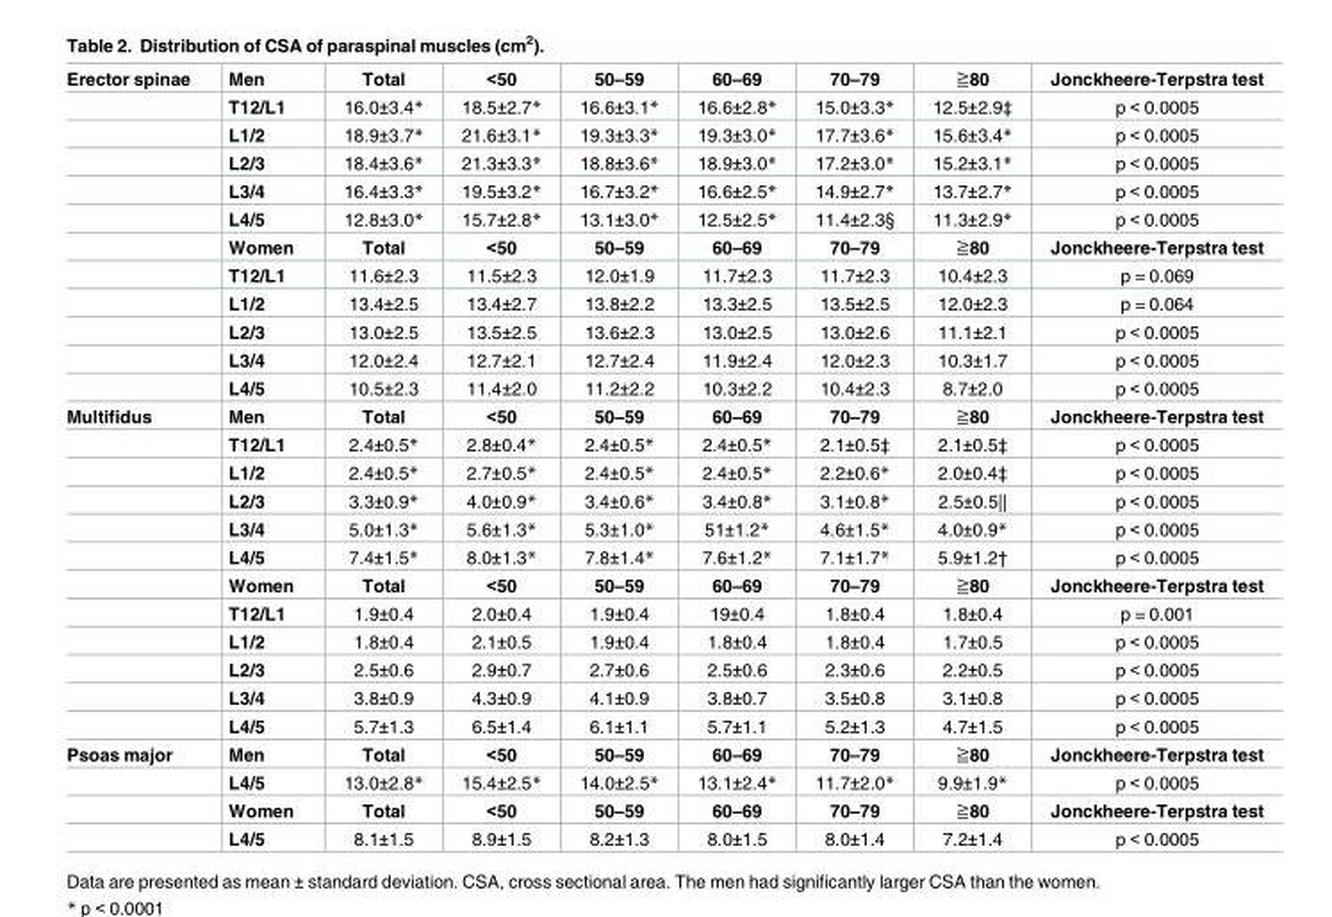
<table><tbody><tr><td rowspan="12">Erector spinae</td><td>Men</td><td>Total</td><td>&lt;50</td><td>50–59</td><td>60–69</td><td>70–79</td><td>≧80</td><td>Jonckheere-Terpstra test</td></tr><tr><td>T12/L1</td><td>16.0±3.4*</td><td>18.5±2.7*</td><td>16.6±3.1*</td><td>16.6±2.8*</td><td>15.0±3.3*</td><td>12.5±2.9‡</td><td>p &lt; 0.0005</td></tr><tr><td>L1/2</td><td>18.9±3.7*</td><td>21.6±3.1*</td><td>19.3±3.3*</td><td>19.3±3.0*</td><td>17.7±3.6*</td><td>15.6±3.4*</td><td>p &lt; 0.0005</td></tr><tr><td>L2/3</td><td>18.4±3.6*</td><td>21.3±3.3*</td><td>18.8±3.6*</td><td>18.9±3.0*</td><td>17.2±3.0*</td><td>15.2±3.1*</td><td>p &lt; 0.0005</td></tr><tr><td>L3/4</td><td>16.4±3.3*</td><td>19.5±3.2*</td><td>16.7±3.2*</td><td>16.6±2.5*</td><td>14.9±2.7*</td><td>13.7±2.7*</td><td>p &lt; 0.0005</td></tr><tr><td>L4/5</td><td>12.8±3.0*</td><td>15.7±2.8*</td><td>13.1±3.0*</td><td>12.5±2.5*</td><td>11.4±2.3§</td><td>11.3±2.9*</td><td>p &lt; 0.0005</td></tr><tr><td>Women</td><td>Total</td><td>&lt;50</td><td>50–59</td><td>60–69</td><td>70–79</td><td>≧80</td><td>Jonckheere-Terpstra test</td></tr><tr><td>T12/L1</td><td>11.6±2.3</td><td>11.5±2.3</td><td>12.0±1.9</td><td>11.7±2.3</td><td>11.7±2.3</td><td>10.4±2.3</td><td>p = 0.069</td></tr><tr><td>L1/2</td><td>13.4±2.5</td><td>13.4±2.7</td><td>13.8±2.2</td><td>13.3±2.5</td><td>13.5±2.5</td><td>12.0±2.3</td><td>p = 0.064</td></tr><tr><td>L2/3</td><td>13.0±2.5</td><td>13.5±2.5</td><td>13.6±2.3</td><td>13.0±2.5</td><td>13.0±2.6</td><td>11.1±2.1</td><td>p &lt; 0.0005</td></tr><tr><td>L3/4</td><td>12.0±2.4</td><td>12.7±2.1</td><td>12.7±2.4</td><td>11.9±2.4</td><td>12.0±2.3</td><td>10.3±1.7</td><td>p &lt; 0.0005</td></tr><tr><td>L4/5</td><td>10.5±2.3</td><td>11.4±2.0</td><td>11.2±2.2</td><td>10.3±2.2</td><td>10.4±2.3</td><td>8.7±2.0</td><td>p &lt; 0.0005</td></tr><tr><td rowspan="12">Multifidus</td><td>Men</td><td>Total</td><td>&lt;50</td><td>50–59</td><td>60–69</td><td>70–79</td><td>≧80</td><td>Jonckheere-Terpstra test</td></tr><tr><td>T12/L1</td><td>2.4±0.5*</td><td>2.8±0.4*</td><td>2.4±0.5*</td><td>2.4±0.5*</td><td>2.1±0.5‡</td><td>2.1±0.5‡</td><td>p &lt; 0.0005</td></tr><tr><td>L1/2</td><td>2.4±0.5*</td><td>2.7±0.5*</td><td>2.4±0.5*</td><td>2.4±0.5*</td><td>2.2±0.6*</td><td>2.0±0.4‡</td><td>p &lt; 0.0005</td></tr><tr><td>L2/3</td><td>3.3±0.9*</td><td>4.0±0.9*</td><td>3.4±0.6*</td><td>3.4±0.8*</td><td>3.1±0.8*</td><td>2.5±0.5||</td><td>p &lt; 0.0005</td></tr><tr><td>L3/4</td><td>5.0±1.3*</td><td>5.6±1.3*</td><td>5.3±1.0*</td><td>51±1.2*</td><td>4.6±1.5*</td><td>4.0±0.9*</td><td>p &lt; 0.0005</td></tr><tr><td>L4/5</td><td>7.4±1.5*</td><td>8.0±1.3*</td><td>7.8±1.4*</td><td>7.6±1.2*</td><td>7.1±1.7*</td><td>5.9±1.2†</td><td>p &lt; 0.0005</td></tr><tr><td>Women</td><td>Total</td><td>&lt;50</td><td>50–59</td><td>60–69</td><td>70–79</td><td>≧80</td><td>Jonckheere-Terpstra test</td></tr><tr><td>T12/L1</td><td>1.9±0.4</td><td>2.0±0.4</td><td>1.9±0.4</td><td>19±0.4</td><td>1.8±0.4</td><td>1.8±0.4</td><td>p = 0.001</td></tr><tr><td>L1/2</td><td>1.8±0.4</td><td>2.1±0.5</td><td>1.9±0.4</td><td>1.8±0.4</td><td>1.8±0.4</td><td>1.7±0.5</td><td>p &lt; 0.0005</td></tr><tr><td>L2/3</td><td>2.5±0.6</td><td>2.9±0.7</td><td>2.7±0.6</td><td>2.5±0.6</td><td>2.3±0.6</td><td>2.2±0.5</td><td>p &lt; 0.0005</td></tr><tr><td>L3/4</td><td>3.8±0.9</td><td>4.3±0.9</td><td>4.1±0.9</td><td>3.8±0.7</td><td>3.5±0.8</td><td>3.1±0.8</td><td>p &lt; 0.0005</td></tr><tr><td>L4/5</td><td>5.7±1.3</td><td>6.5±1.4</td><td>6.1±1.1</td><td>5.7±1.1</td><td>5.2±1.3</td><td>4.7±1.5</td><td>p &lt; 0.0005</td></tr><tr><td rowspan="4">Psoas major</td><td>Men</td><td>Total</td><td>&lt;50</td><td>50–59</td><td>60–69</td><td>70–79</td><td>≧80</td><td>Jonckheere-Terpstra test</td></tr><tr><td>L4/5</td><td>13.0±2.8*</td><td>15.4±2.5*</td><td>14.0±2.5*</td><td>13.1±2.4*</td><td>11.7±2.0*</td><td>9.9±1.9*</td><td>p &lt; 0.0005</td></tr><tr><td>Women</td><td>Total</td><td>&lt;50</td><td>50–59</td><td>60–69</td><td>70–79</td><td>≧80</td><td>Jonckheere-Terpstra test</td></tr><tr><td>L4/5</td><td>8.1±1.5</td><td>8.9±1.5</td><td>8.2±1.3</td><td>8.0±1.5</td><td>8.0±1.4</td><td>7.2±1.4</td><td>p &lt; 0.0005</td></tr></tbody></table>